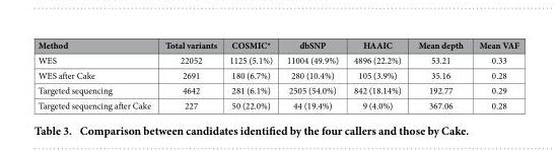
<table><thead><tr><td>Method</td><td>Total variants</td><td>COSMIC*</td><td>dbSNP</td><td>HAAIC</td><td>Mean depth</td><td>Mean VAF</td></tr></thead><tbody><tr><td>WES</td><td>22052</td><td>1125 (5.1%)</td><td>11004 (49.9%)</td><td>4896 (22.2%)</td><td>53.21</td><td>0.33</td></tr><tr><td>WES after Cake</td><td>2691</td><td>180 (6.7%)</td><td>280 (10.4%)</td><td>105 (3.9%)</td><td>35.16</td><td>0.28</td></tr><tr><td>Targeted sequencing</td><td>4642</td><td>281 (6.1%)</td><td>2505 (54.0%)</td><td>842 (18.14%)</td><td>192.77</td><td>0.29</td></tr><tr><td>Targeted sequencing after Cake</td><td>227</td><td>50 (22.0%)</td><td>44 (19.4%)</td><td>9 (4.0%)</td><td>367.06</td><td>0.28</td></tr></tbody></table>